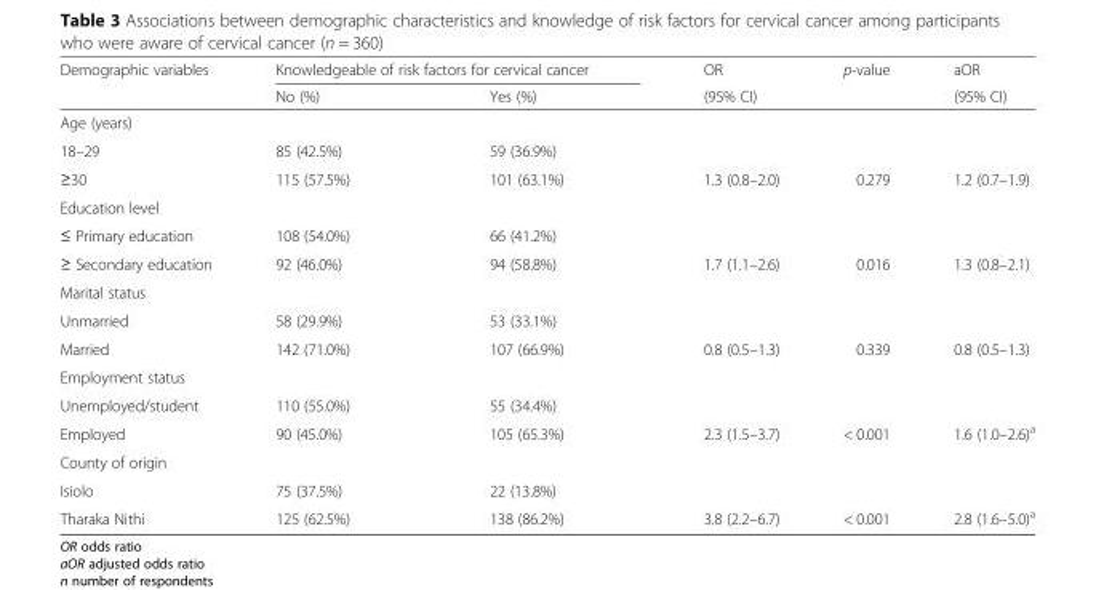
<table><thead><tr><td rowspan="2">Demographic variables</td><td colspan="2">Knowledgeable of risk factors for cervical cancer</td><td rowspan="2">OR (95% CI)</td><td rowspan="2">p-value</td><td rowspan="2">aOR (95% CI)</td></tr><tr><td>No (%)</td><td>Yes (%)</td></tr></thead><tbody><tr><td colspan="6">Age (years)</td></tr><tr><td>18–29</td><td>85 (42.5%)</td><td>59 (36.9%)</td><td colspan="3"></td></tr><tr><td>≥30</td><td>115 (57.5%)</td><td>101 (63.1%)</td><td>1.3 (0.8–2.0)</td><td>0.279</td><td>1.2 (0.7–1.9)</td></tr><tr><td colspan="6">Education level</td></tr><tr><td>≤ Primary education</td><td>108 (54.0%)</td><td>66 (41.2%)</td><td></td><td></td><td></td></tr><tr><td>≥ Secondary education</td><td>92 (46.0%)</td><td>94 (58.8%)</td><td>1.7 (1.1–2.6)</td><td>0.016</td><td>1.3 (0.8–2.1)</td></tr><tr><td colspan="6">Marital status</td></tr><tr><td>Unmarried</td><td>58 (29.9%)</td><td>53 (33.1%)</td><td></td><td></td><td></td></tr><tr><td>Married</td><td>142 (71.0%)</td><td>107 (66.9%)</td><td>0.8 (0.5–1.3)</td><td>0.339</td><td>0.8 (0.5–1.3)</td></tr><tr><td colspan="6">Employment status</td></tr><tr><td>Unemployed/student</td><td>110 (55.0%)</td><td>55 (34.4%)</td><td></td><td></td><td></td></tr><tr><td>Employed</td><td>90 (45.0%)</td><td>105 (65.3%)</td><td>2.3 (1.5–3.7)</td><td>&lt; 0.001</td><td>1.6 (1.0–2.6)<sup>a</sup></td></tr><tr><td colspan="6">County of origin</td></tr><tr><td>Isiolo</td><td>75 (37.5%)</td><td>22 (13.8%)</td><td></td><td></td><td></td></tr><tr><td>Tharaka Nithi</td><td>125 (62.5%)</td><td>138 (86.2%)</td><td>3.8 (2.2–6.7)</td><td>&lt; 0.001</td><td>2.8 (1.6–5.0)<sup>a</sup></td></tr></tbody></table>